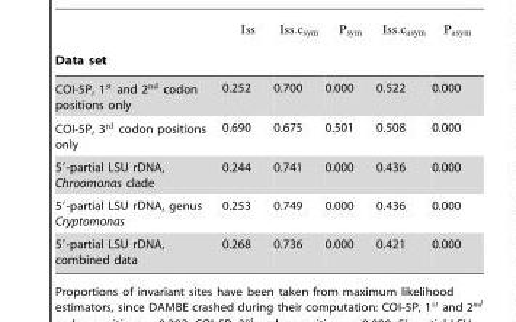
<table><thead><tr><td>Data set</td><td></td><td></td><td></td><td></td><td></td></tr></thead><tbody><tr><td>COI-5P, 1st and 2nd codon positions only</td><td>0.252</td><td>0.700</td><td>0.000</td><td>0.522</td><td>0.000</td></tr><tr><td>COI-5P, 3rd codon positions only</td><td>0.690</td><td>0.675</td><td>0.501</td><td>0.508</td><td>0.000</td></tr><tr><td>5′-partial LSU rDNA, Chroomonas clade</td><td>0.244</td><td>0.741</td><td>0.000</td><td>0.436</td><td>0.000</td></tr><tr><td>5′-partial LSU rDNA, genus Cryptomonas</td><td>0.253</td><td>0.749</td><td>0.000</td><td>0.436</td><td>0.000</td></tr><tr><td>5′-partial LSU rDNA, combined data</td><td>0.268</td><td>0.736</td><td>0.000</td><td>0.421</td><td>0.000</td></tr></tbody></table>